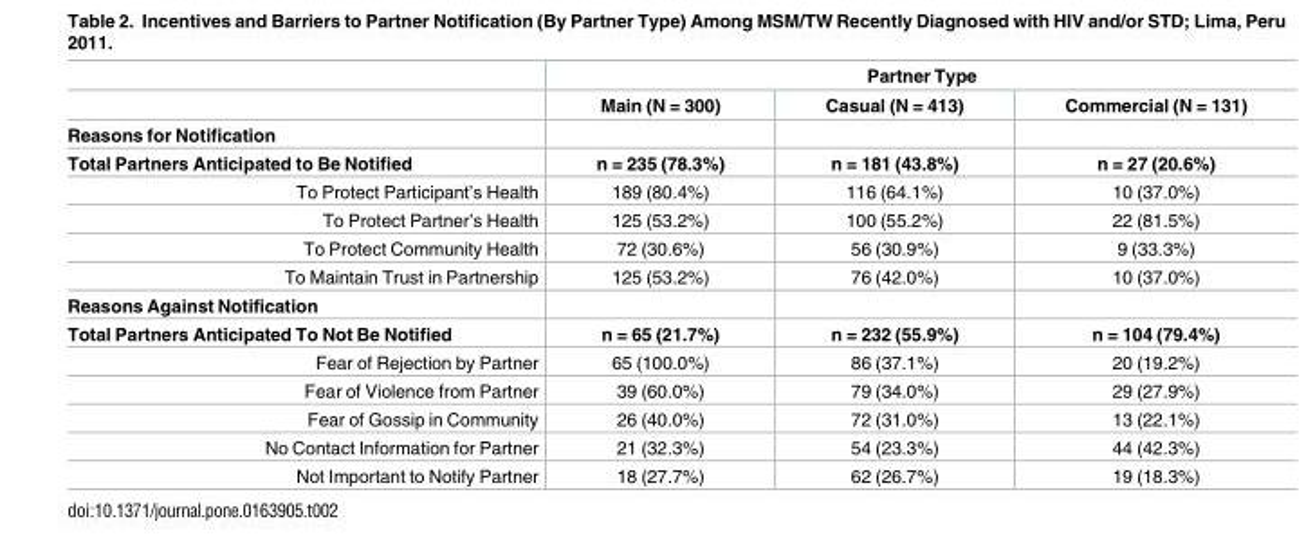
<table><thead><tr><td rowspan="2"></td><td colspan="3">Partner Type</td></tr><tr><td>Main (N = 300)</td><td>Casual (N = 413)</td><td>Commercial (N = 131)</td></tr></thead><tbody><tr><td colspan="4">Reasons for Notification</td></tr><tr><td>Total Partners Anticipated to Be Notified</td><td>n = 235 (78.3%)</td><td>n = 181 (43.8%)</td><td>n = 27 (20.6%)</td></tr><tr><td>To Protect Participant’s Health</td><td>189 (80.4%)</td><td>116 (64.1%)</td><td>10 (37.0%)</td></tr><tr><td>To Protect Partner’s Health</td><td>125 (53.2%)</td><td>100 (55.2%)</td><td>22 (81.5%)</td></tr><tr><td>To Protect Community Health</td><td>72 (30.6%)</td><td>56 (30.9%)</td><td>9 (33.3%)</td></tr><tr><td>To Maintain Trust in Partnership</td><td>125 (53.2%)</td><td>76 (42.0%)</td><td>10 (37.0%)</td></tr><tr><td colspan="4">Reasons Against Notification</td></tr><tr><td>Total Partners Anticipated To Not Be Notified</td><td>n = 65 (21.7%)</td><td>n = 232 (55.9%)</td><td>n = 104 (79.4%)</td></tr><tr><td>Fear of Rejection by Partner</td><td>65 (100.0%)</td><td>86 (37.1%)</td><td>20 (19.2%)</td></tr><tr><td>Fear of Violence from Partner</td><td>39 (60.0%)</td><td>79 (34.0%)</td><td>29 (27.9%)</td></tr><tr><td>Fear of Gossip in Community</td><td>26 (40.0%)</td><td>72 (31.0%)</td><td>13 (22.1%)</td></tr><tr><td>No Contact Information for Partner</td><td>21 (32.3%)</td><td>54 (23.3%)</td><td>44 (42.3%)</td></tr><tr><td>Not Important to Notify Partner</td><td>18 (27.7%)</td><td>62 (26.7%)</td><td>19 (18.3%)</td></tr></tbody></table>